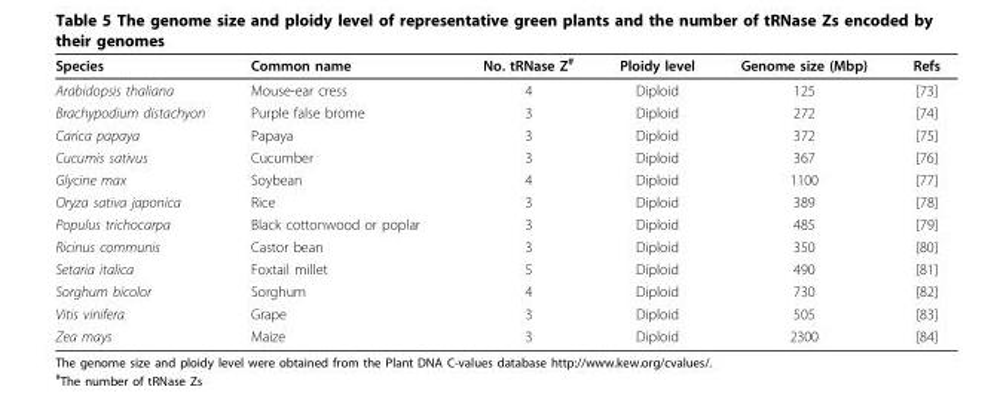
<table><thead><tr><td>Species</td><td>Common name</td><td>No. tRNase Z<sup>#</sup></td><td>Ploidy level</td><td>Genome size (Mbp)</td><td>Refs</td></tr></thead><tbody><tr><td>Arabidopsis thaliana</td><td>Mouse-ear cress</td><td>4</td><td>Diploid</td><td>125</td><td>[73]</td></tr><tr><td>Brachypodium distachyon</td><td>Purple false brome</td><td>3</td><td>Diploid</td><td>272</td><td>[74]</td></tr><tr><td>Carica papaya</td><td>Papaya</td><td>3</td><td>Diploid</td><td>372</td><td>[75]</td></tr><tr><td>Cucumis sativus</td><td>Cucumber</td><td>3</td><td>Diploid</td><td>367</td><td>[76]</td></tr><tr><td>Glycine max</td><td>Soybean</td><td>4</td><td>Diploid</td><td>1100</td><td>[77]</td></tr><tr><td>Oryza sativa japonica</td><td>Rice</td><td>3</td><td>Diploid</td><td>389</td><td>[78]</td></tr><tr><td>Populus trichocarpa</td><td>Black cottonwood or poplar</td><td>3</td><td>Diploid</td><td>485</td><td>[79]</td></tr><tr><td>Ricinus communis</td><td>Castor bean</td><td>3</td><td>Diploid</td><td>350</td><td>[80]</td></tr><tr><td>Setaria italica</td><td>Foxtail millet</td><td>5</td><td>Diploid</td><td>490</td><td>[81]</td></tr><tr><td>Sorghum bicolor</td><td>Sorghum</td><td>4</td><td>Diploid</td><td>730</td><td>[82]</td></tr><tr><td>Vitis vinifera</td><td>Grape</td><td>3</td><td>Diploid</td><td>505</td><td>[83]</td></tr><tr><td>Zea mays</td><td>Maize</td><td>3</td><td>Diploid</td><td>2300</td><td>[84]</td></tr></tbody></table>